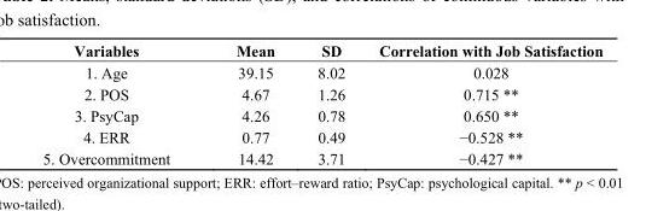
<table><thead><tr><td>Variables</td><td>Mean</td><td>SD</td><td>Correlation with Job Satisfaction</td></tr></thead><tbody><tr><td>1. Age</td><td>39.15</td><td>8.02</td><td>0.028</td></tr><tr><td>2. POS</td><td>4.67</td><td>1.26</td><td>0.715 **</td></tr><tr><td>3. PsyCap</td><td>4.26</td><td>0.78</td><td>0.650 **</td></tr><tr><td>4. ERR</td><td>0.77</td><td>0.49</td><td>−0.528 **</td></tr><tr><td>5. Overcommitment</td><td>14.42</td><td>3.71</td><td>−0.427 **</td></tr></tbody></table>